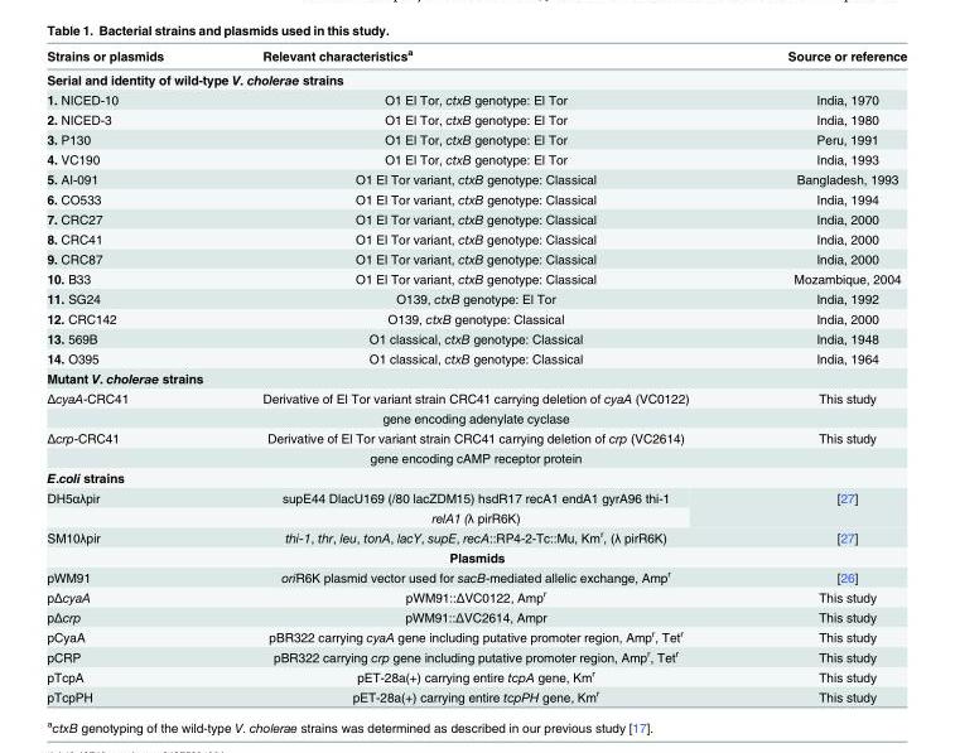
<table><thead><tr><td>Strains or plasmids</td><td>Relevant characteristics<sup>a</sup></td><td>Source or reference</td></tr></thead><tbody><tr><td colspan="3">Serial and identity of wild-type V. cholerae strains</td></tr><tr><td>1. NICED-10</td><td>O1 El Tor, ctxB genotype: El Tor</td><td>India, 1970</td></tr><tr><td>2. NICED-3</td><td>O1 El Tor, ctxB genotype: El Tor</td><td>India, 1980</td></tr><tr><td>3. P130</td><td>O1 El Tor, ctxB genotype: El Tor</td><td>Peru, 1991</td></tr><tr><td>4. VC190</td><td>O1 El Tor, ctxB genotype: El Tor</td><td>India, 1993</td></tr><tr><td>5. AI-091</td><td>O1 El Tor variant, ctxB genotype: Classical</td><td>Bangladesh, 1993</td></tr><tr><td>6. CO533</td><td>O1 El Tor variant, ctxB genotype: Classical</td><td>India, 1994</td></tr><tr><td>7. CRC27</td><td>O1 El Tor variant, ctxB genotype: Classical</td><td>India, 2000</td></tr><tr><td>8. CRC41</td><td>O1 El Tor variant, ctxB genotype: Classical</td><td>India, 2000</td></tr><tr><td>9. CRC87</td><td>O1 El Tor variant, ctxB genotype: Classical</td><td>India, 2000</td></tr><tr><td>10. B33</td><td>O1 El Tor variant, ctxB genotype: Classical</td><td>Mozambique, 2004</td></tr><tr><td>11. SG24</td><td>O139, ctxB genotype: El Tor</td><td>India, 1992</td></tr><tr><td>12. CRC142</td><td>O139, ctxB genotype: Classical</td><td>India, 2000</td></tr><tr><td>13. 569B</td><td>O1 classical, ctxB genotype: Classical</td><td>India, 1948</td></tr><tr><td>14. O395</td><td>O1 classical, ctxB genotype: Classical</td><td>India, 1964</td></tr><tr><td colspan="3">Mutant V. cholerae strains</td></tr><tr><td rowspan="2">ΔcyaA-CRC41</td><td>Derivative of El Tor variant strain CRC41 carrying deletion of cyaA (VC0122)</td><td>This study</td></tr><tr><td>gene encoding adenylate cyclase</td><td></td></tr><tr><td rowspan="2">Δcrp-CRC41</td><td>Derivative of El Tor variant strain CRC41 carrying deletion of crp (VC2614)</td><td>This study</td></tr><tr><td>gene encoding cAMP receptor protein</td><td></td></tr><tr><td colspan="3">E.coli strains</td></tr><tr><td rowspan="2">DH5αλpir</td><td>supE44 DlacU169 (/80 lacZDM15) hsdR17 recA1 endA1 gyrA96 thi-1</td><td rowspan="2">[27]</td></tr><tr><td>relA1 (λ pirR6K)</td></tr><tr><td>SM10λpir</td><td>thi-1, thr, leu, tonA, lacY, supE, recA::RP4-2-Tc::Mu, Km<sup>r</sup>, (λ pirR6K)</td><td>[27]</td></tr><tr><td colspan="3">Plasmids</td></tr><tr><td>pWM91</td><td>oriR6K plasmid vector used for sacB-mediated allelic exchange, Amp<sup>r</sup></td><td>[26]</td></tr><tr><td>pΔcyaA</td><td>pWM91::ΔVC0122, Amp<sup>r</sup></td><td>This study</td></tr><tr><td>pΔcrp</td><td>pWM91::ΔVC2614, Ampr</td><td>This study</td></tr><tr><td>pCyaA</td><td>pBR322 carrying cyaA gene including putative promoter region, Amp<sup>r</sup>, Tet<sup>r</sup></td><td>This study</td></tr><tr><td>pCRP</td><td>pBR322 carrying crp gene including putative promoter region, Amp<sup>r</sup>, Tet<sup>r</sup></td><td>This study</td></tr><tr><td>pTcpA</td><td>pET-28a(+) carrying entire tcpA gene, Km<sup>r</sup></td><td>This study</td></tr><tr><td>pTcpPH</td><td>pET-28a(+) carrying entire tcpPH gene, Km<sup>r</sup></td><td>This study</td></tr></tbody></table>